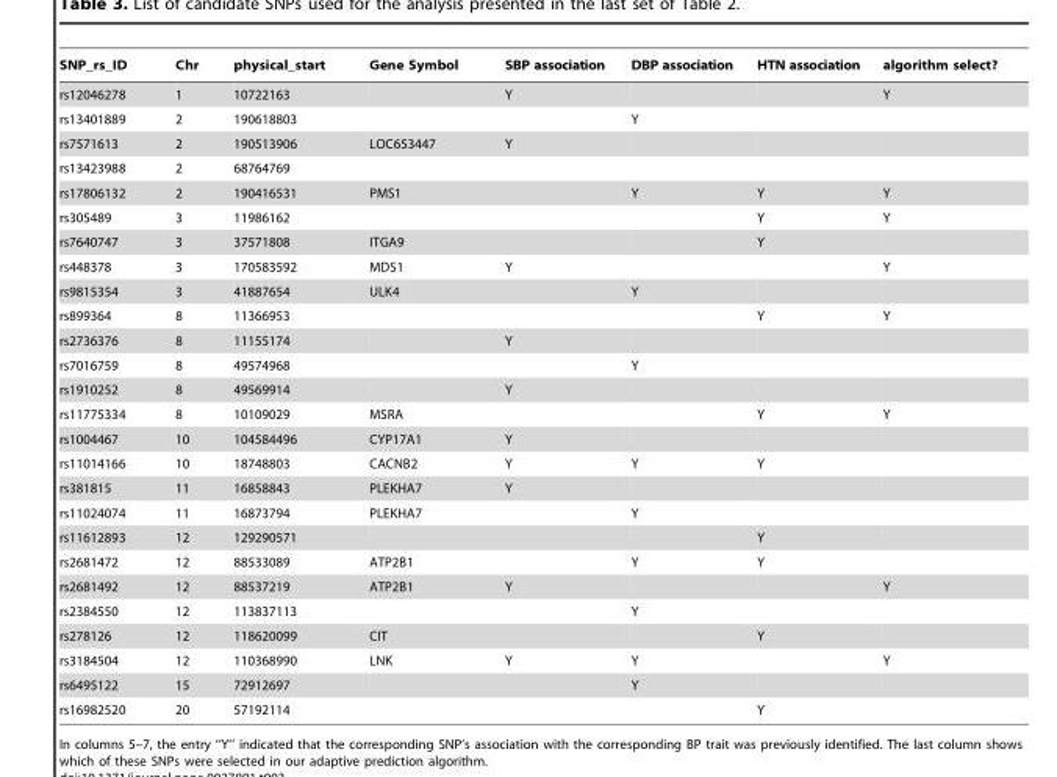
<table><thead><tr><td>SNP_rs_ID</td><td>Chr</td><td>physical_start</td><td>Gene Symbol</td><td>SBP association</td><td>DBP association</td><td>HTN association</td><td>algorithm select?</td></tr></thead><tbody><tr><td>rs12046278</td><td>1</td><td>10722163</td><td></td><td>Y</td><td></td><td></td><td>Y</td></tr><tr><td>rs13401889</td><td>2</td><td>190618803</td><td></td><td></td><td>Y</td><td></td><td></td></tr><tr><td>rs7571613</td><td>2</td><td>190513906</td><td>LOC653447</td><td>Y</td><td></td><td></td><td></td></tr><tr><td>rs13423988</td><td>2</td><td>68764769</td><td></td><td></td><td></td><td></td><td></td></tr><tr><td>rs17806132</td><td>2</td><td>190416531</td><td>PMS1</td><td></td><td>Y</td><td>Y</td><td>Y</td></tr><tr><td>rs305489</td><td>3</td><td>11986162</td><td></td><td></td><td></td><td>Y</td><td>Y</td></tr><tr><td>rs7640747</td><td>3</td><td>37571808</td><td>ITGA9</td><td></td><td></td><td>Y</td><td></td></tr><tr><td>rs448378</td><td>3</td><td>170583592</td><td>MDS1</td><td>Y</td><td></td><td></td><td>Y</td></tr><tr><td>rs9815354</td><td>3</td><td>41887654</td><td>ULK4</td><td></td><td>Y</td><td></td><td></td></tr><tr><td>rs899364</td><td>8</td><td>11366953</td><td></td><td></td><td></td><td>Y</td><td>Y</td></tr><tr><td>rs2736376</td><td>8</td><td>11155174</td><td></td><td>Y</td><td></td><td></td><td></td></tr><tr><td>rs7016759</td><td>8</td><td>49574968</td><td></td><td></td><td>Y</td><td></td><td></td></tr><tr><td>rs1910252</td><td>8</td><td>49569914</td><td></td><td>Y</td><td></td><td></td><td></td></tr><tr><td>rs11775334</td><td>8</td><td>10109029</td><td>MSRA</td><td></td><td></td><td>Y</td><td>Y</td></tr><tr><td>rs1004467</td><td>10</td><td>104584496</td><td>CYP17A1</td><td>Y</td><td></td><td></td><td></td></tr><tr><td>rs11014166</td><td>10</td><td>18748803</td><td>CACNB2</td><td>Y</td><td>Y</td><td>Y</td><td></td></tr><tr><td>rs381815</td><td>11</td><td>16858843</td><td>PLEKHA7</td><td>Y</td><td></td><td></td><td></td></tr><tr><td>rs11024074</td><td>11</td><td>16873794</td><td>PLEKHA7</td><td></td><td>Y</td><td></td><td></td></tr><tr><td>rs11612893</td><td>12</td><td>129290571</td><td></td><td></td><td></td><td>Y</td><td></td></tr><tr><td>rs2681472</td><td>12</td><td>88533089</td><td>ATP2B1</td><td></td><td>Y</td><td>Y</td><td></td></tr><tr><td>rs2681492</td><td>12</td><td>88537219</td><td>ATP2B1</td><td>Y</td><td></td><td></td><td>Y</td></tr><tr><td>rs2384550</td><td>12</td><td>113837113</td><td></td><td></td><td>Y</td><td></td><td></td></tr><tr><td>rs278126</td><td>12</td><td>118620099</td><td>CIT</td><td></td><td></td><td>Y</td><td></td></tr><tr><td>rs3184504</td><td>12</td><td>110368990</td><td>LNK</td><td>Y</td><td>Y</td><td></td><td>Y</td></tr><tr><td>rs6495122</td><td>15</td><td>72912697</td><td></td><td></td><td>Y</td><td></td><td></td></tr><tr><td>rs16982520</td><td>20</td><td>57192114</td><td></td><td></td><td></td><td>Y</td><td></td></tr></tbody></table>